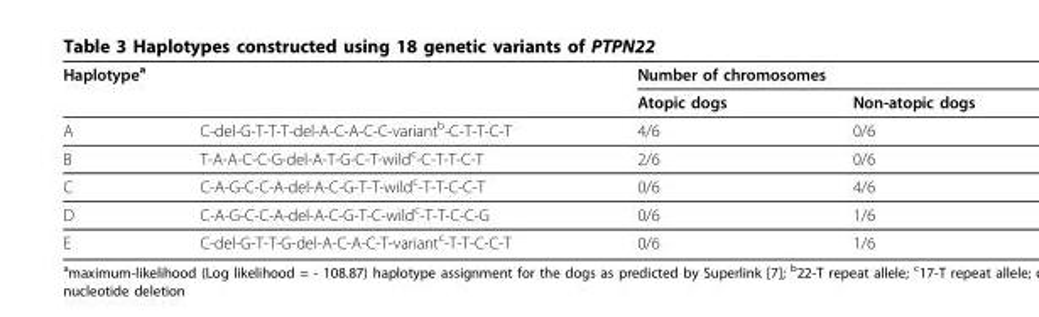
<table><thead><tr><td colspan="2">Haplotype<sup>a</sup></td><td colspan="2">Number of chromosomes</td></tr><tr><td></td><td></td><td>Atopic dogs</td><td>Non-atopic dogs</td></tr></thead><tbody><tr><td>A</td><td>C-del-G-T-T-T-del-A-C-A-C-C-variant<sup>b</sup>-C-T-T-C-T</td><td>4/6</td><td>0/6</td></tr><tr><td>B</td><td>T-A-A-C-C-G-del-A-T-G-C-T-wild<sup>c</sup>-C-T-T-C-T</td><td>2/6</td><td>0/6</td></tr><tr><td>C</td><td>C-A-G-C-C-A-del-A-C-G-T-T-wild<sup>c</sup>-T-T-C-C-T</td><td>0/6</td><td>4/6</td></tr><tr><td>D</td><td>C-A-G-C-C-A-del-A-C-G-T-C-wild<sup>c</sup>-T-T-C-C-G</td><td>0/6</td><td>1/6</td></tr><tr><td>E</td><td>C-del-G-T-T-G-del-A-C-A-C-T-variant<sup>c</sup>-T-T-C-C-T</td><td>0/6</td><td>1/6</td></tr></tbody></table>